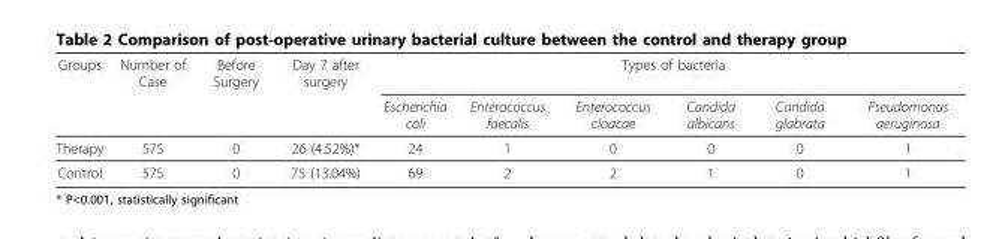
<table><thead><tr><td rowspan="2">Groups</td><td rowspan="2">Number of Case</td><td rowspan="2">Before Surgery</td><td rowspan="2">Day 7 after surgery</td><td colspan="6">Types of bacteria</td></tr><tr><td>Escherichia coli</td><td>Enterococcus faecalis</td><td>Enterococcus cloacae</td><td>Candida albicans</td><td>Candida glabrata</td><td>Pseudomonas aeruginosa</td></tr></thead><tbody><tr><td>Therapy</td><td>575</td><td>0</td><td>26 (4.52%)*</td><td>24</td><td>1</td><td>0</td><td>0</td><td>0</td><td>1</td></tr><tr><td>Control</td><td>575</td><td>0</td><td>75 (13.04%)</td><td>69</td><td>2</td><td>2</td><td>1</td><td>0</td><td>1</td></tr></tbody></table>